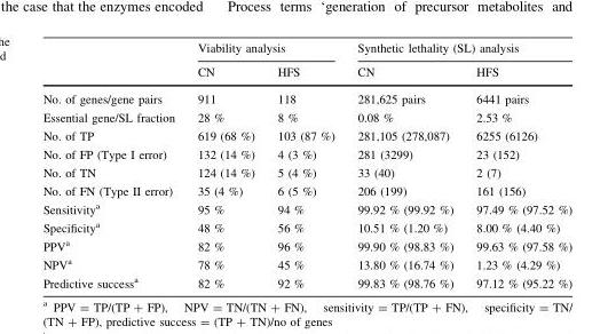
<table><thead><tr><td rowspan="2"></td><td colspan="2">Viability analysis</td><td colspan="2">Synthetic lethality (SL) analysis</td></tr><tr><td>CN</td><td>HFS</td><td>CN</td><td>HFS</td></tr></thead><tbody><tr><td>No. of genes/gene pairs</td><td>911</td><td>118</td><td>281,625 pairs</td><td>6441 pairs</td></tr><tr><td>Essential gene/SL fraction</td><td>28 %</td><td>8 %</td><td>0.08 %</td><td>2.53 %</td></tr><tr><td>No. of TP</td><td>619 (68 %)</td><td>103 (87 %)</td><td>281,105 (278,087)</td><td>6255 (6126)</td></tr><tr><td>No. of FP (Type I error)</td><td>132 (14 %)</td><td>4 (3 %)</td><td>281 (3299)</td><td>23 (152)</td></tr><tr><td>No. of TN</td><td>124 (14 %)</td><td>5 (4 %)</td><td>33 (40)</td><td>2 (7)</td></tr><tr><td>No. of FN (Type II error)</td><td>35 (4 %)</td><td>6 (5 %)</td><td>206 (199)</td><td>161 (156)</td></tr><tr><td>Sensitivity<sup>a</sup></td><td>95 %</td><td>94 %</td><td>99.92 % (99.92 %)</td><td>97.49 % (97.52 %)</td></tr><tr><td>Specificity<sup>a</sup></td><td>48 %</td><td>56 %</td><td>10.51 % (1.20 %)</td><td>8.00 % (4.40 %)</td></tr><tr><td>PPV<sup>a</sup></td><td>82 %</td><td>96 %</td><td>99.90 % (98.83 %)</td><td>99.63 % (97.58 %)</td></tr><tr><td>NPV<sup>a</sup></td><td>78 %</td><td>45 %</td><td>13.80 % (16.74 %)</td><td>1.23 % (4.29 %)</td></tr><tr><td>Predictive success<sup>a</sup></td><td>82 %</td><td>92 %</td><td>99.83 % (98.76 %)</td><td>97.12 % (95.22 %)</td></tr></tbody></table>